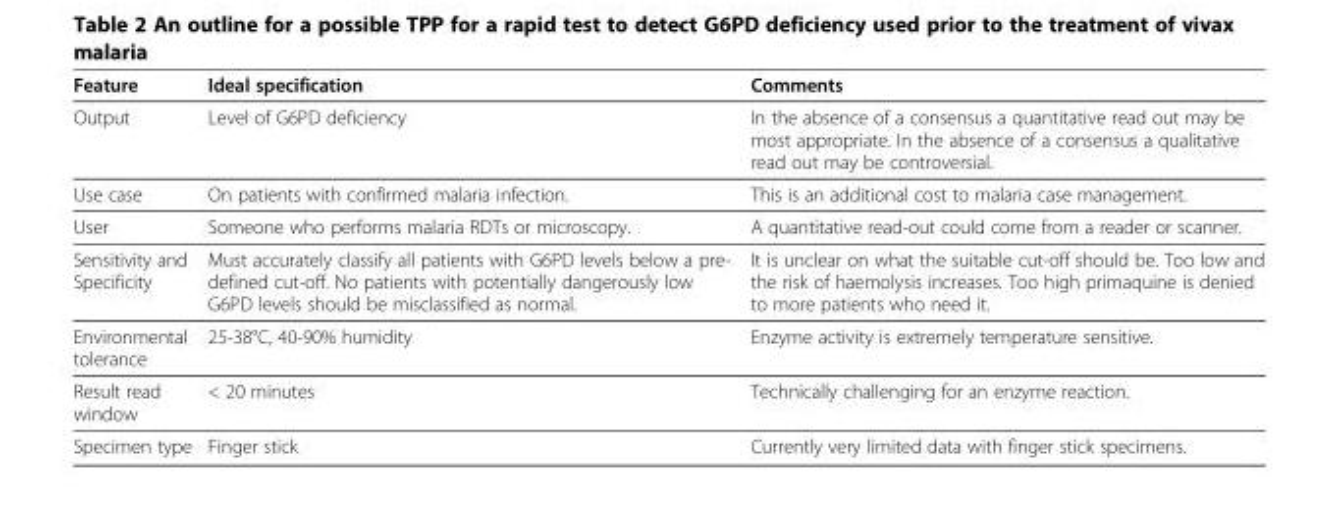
<table><thead><tr><td>Feature</td><td>Ideal specification</td><td>Comments</td></tr></thead><tbody><tr><td>Output</td><td>Level of G6PD deficiency</td><td>In the absence of a consensus a quantitative read out may be most appropriate. In the absence of a consensus a qualitative read out may be controversial.</td></tr><tr><td>Use case</td><td>On patients with confirmed malaria infection.</td><td>This is an additional cost to malaria case management.</td></tr><tr><td>User</td><td>Someone who performs malaria RDTs or microscopy.</td><td>A quantitative read-out could come from a reader or scanner.</td></tr><tr><td>Sensitivity and Specificity</td><td>Must accurately classify all patients with G6PD levels below a pre- defined cut-off. No patients with potentially dangerously low G6PD levels should be misclassified as normal.</td><td>It is unclear on what the suitable cut-off should be. Too low and the risk of haemolysis increases. Too high primaquine is denied to more patients who need it.</td></tr><tr><td>Environmental tolerance</td><td>25-38°C, 40-90% humidity</td><td>Enzyme activity is extremely temperature sensitive.</td></tr><tr><td>Result read window</td><td>&lt; 20 minutes</td><td>Technically challenging for an enzyme reaction.</td></tr><tr><td>Specimen type</td><td>Finger stick</td><td>Currently very limited data with finger stick specimens.</td></tr></tbody></table>